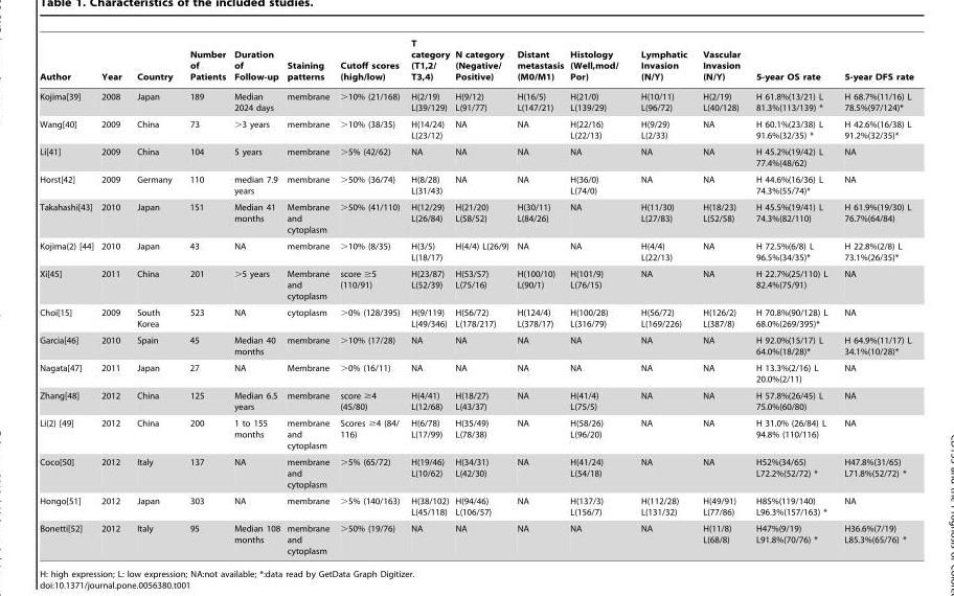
<table><thead><tr><td>Author</td><td>Year</td><td>Country</td><td>Number of Patients</td><td>Duration of Follow-up</td><td>Staining patterns</td><td>Cutoff scores (high/low)</td><td>T category (T1,2/ T3,4)</td><td>N category (Negative/ Positive)</td><td>Distant metastasis (M0/M1)</td><td>Histology (Well,mod/ Por)</td><td>Lymphatic Invasion (N/Y)</td><td>Vascular Invasion (N/Y)</td><td>5-year OS rate</td><td>5-year DFS rate</td></tr></thead><tbody><tr><td>Kojima[39]</td><td>2008</td><td>Japan</td><td>189</td><td>Median 2024 days</td><td>membrane</td><td>&gt;10% (21/168)</td><td>H(2/19) L(39/129)</td><td>H(9/12) L(91/77)</td><td>H(16/5) L(147/21)</td><td>H(21/0) L(139/29)</td><td>H(10/11) L(96/72)</td><td>H(2/19) L(40/128)</td><td>H 61.8%(13/21) L 81.3%(113/139) *</td><td>H 68.7%(11/16) L 78.5%(97/124)*</td></tr><tr><td>Wang[40]</td><td>2009</td><td>China</td><td>73</td><td>&gt;3 years</td><td>membrane</td><td>&gt;10% (38/35)</td><td>H(14/24) L(23/12)</td><td>NA</td><td>NA</td><td>H(22/16) L(22/13)</td><td>H(9/29) L(2/33)</td><td>NA</td><td>H 60.1%(23/38) L 91.6%(32/35) *</td><td>H 42.6%(16/38) L 91.2%(32/35)*</td></tr><tr><td>Li[41]</td><td>2009</td><td>China</td><td>104</td><td>5 years</td><td>membrane</td><td>&gt;5% (42/62)</td><td>NA</td><td>NA</td><td>NA</td><td>NA</td><td>NA</td><td>NA</td><td>H 45.2%(19/42) L 77.4%(48/62)</td><td>NA</td></tr><tr><td>Horst[42]</td><td>2009</td><td>Germany</td><td>110</td><td>median 7.9 years</td><td>membrane</td><td>&gt;50% (36/74)</td><td>H(8/28) L(31/43)</td><td>NA</td><td>NA</td><td>H(36/0) L(74/0)</td><td>NA</td><td>NA</td><td>H 44.6%(16/36) L 74.3%(55/74)*</td><td>NA</td></tr><tr><td>Takahashi[43]</td><td>2010</td><td>Japan</td><td>151</td><td>Median 41 months</td><td>Membrane and cytoplasm</td><td>&gt;50% (41/110)</td><td>H(12/29) L(26/84)</td><td>H(21/20) L(58/52)</td><td>H(30/11) L(84/26)</td><td>NA</td><td>H(11/30) L(27/83)</td><td>H(18/23) L(52/58)</td><td>H 45.5%(19/41) L 74.3%(82/110)</td><td>H 61.9%(19/30) L 76.7%(64/84)</td></tr><tr><td>Kojima(2) [44]</td><td>2010</td><td>Japan</td><td>43</td><td>NA</td><td>membrane</td><td>&gt;10% (8/35)</td><td>H(3/5) L(18/17)</td><td>H(4/4) L(26/9)</td><td>NA</td><td>NA</td><td>H(4/4) L(22/13)</td><td>NA</td><td>H 72.5%(6/8) L 96.5%(34/35)*</td><td>H 22.8%(2/8) L 73.1%(26/35)*</td></tr><tr><td>Xi[45]</td><td>2011</td><td>China</td><td>201</td><td>&gt;5 years</td><td>Membrane and cytoplasm</td><td>score ≥5 (110/91)</td><td>H(23/87) L(52/39)</td><td>H(53/57) L(75/16)</td><td>H(100/10) L(90/1)</td><td>H(101/9) L(76/15)</td><td>NA</td><td>NA</td><td>H 22.7%(25/110) L 82.4%(75/91)</td><td>NA</td></tr><tr><td>Choi[15]</td><td>2009</td><td>South Korea</td><td>523</td><td>NA</td><td>cytoplasm</td><td>&gt;0% (128/395)</td><td>H(9/119) L(49/346)</td><td>H(56/72) L(178/217)</td><td>H(124/4) L(378/17)</td><td>H(100/28) L(316/79)</td><td>H(56/72) L(169/226)</td><td>H(126/2) L(387/8)</td><td>H 70.8%(90/128) L 68.0%(269/395)*</td><td>NA</td></tr><tr><td>Garcia[46]</td><td>2010</td><td>Spain</td><td>45</td><td>Median 40 months</td><td>membrane</td><td>&gt;10% (17/28)</td><td>NA</td><td>NA</td><td>NA</td><td>NA</td><td>NA</td><td>NA</td><td>H 92.0%(15/17) L 64.0%(18/28)*</td><td>H 64.9%(11/17) L 34.1%(10/28)*</td></tr><tr><td>Nagata[47]</td><td>2011</td><td>Japan</td><td>27</td><td>NA</td><td>Membrane</td><td>&gt;0% (16/11)</td><td>NA</td><td>NA</td><td>NA</td><td>NA</td><td>NA</td><td>NA</td><td>H 13.3%(2/16) L 20.0%(2/11)</td><td>NA</td></tr><tr><td>Zhang[48]</td><td>2012</td><td>China</td><td>125</td><td>Median 6.5 years</td><td>membrane</td><td>score ≥4 (45/80)</td><td>H(4/41) L(12/68)</td><td>H(18/27) L(43/37)</td><td>NA</td><td>H(41/4) L(75/5)</td><td>NA</td><td>NA</td><td>H 57.8%(26/45) L 75.0%(60/80)</td><td>NA</td></tr><tr><td>Li(2) [49]</td><td>2012</td><td>China</td><td>200</td><td>1 to 155 months</td><td>membrane and cytoplasm</td><td>Scores ≥4 (84/ 116)</td><td>H(6/78) L(17/99)</td><td>H(35/49) L(78/38)</td><td>NA</td><td>H(58/26) L(96/20)</td><td>NA</td><td>NA</td><td>H 31.0% (26/84) L 94.8% (110/116)</td><td>NA</td></tr><tr><td>Coco[50]</td><td>2012</td><td>Italy</td><td>137</td><td>NA</td><td>membrane and cytoplasm</td><td>&gt;5% (65/72)</td><td>H(19/46) L(10/62)</td><td>H(34/31) L(42/30)</td><td>NA</td><td>H(41/24) L(54/18)</td><td>NA</td><td>NA</td><td>H52%(34/65) L72.2%(52/72) *</td><td>H47.8%(31/65) L71.8%(52/72) *</td></tr><tr><td>Hongo[51]</td><td>2012</td><td>Japan</td><td>303</td><td>NA</td><td>membrane</td><td>&gt;5% (140/163)</td><td>H(38/102) L(45/118)</td><td>H(94/46) L(106/57)</td><td>NA</td><td>H(137/3) L(156/7)</td><td>H(112/28) L(131/32)</td><td>H(49/91) L(77/86)</td><td>H85%(119/140) L96.3%(157/163) *</td><td>NA</td></tr><tr><td>Bonetti[52]</td><td>2012</td><td>Italy</td><td>95</td><td>Median 108 months</td><td>membrane and cytoplasm</td><td>&gt;50% (19/76)</td><td>NA</td><td>NA</td><td>NA</td><td>NA</td><td>NA</td><td>H(11/8) L(68/8)</td><td>H47%(9/19) L91.8%(70/76) *</td><td>H36.6%(7/19) L85.3%(65/76) *</td></tr></tbody></table>